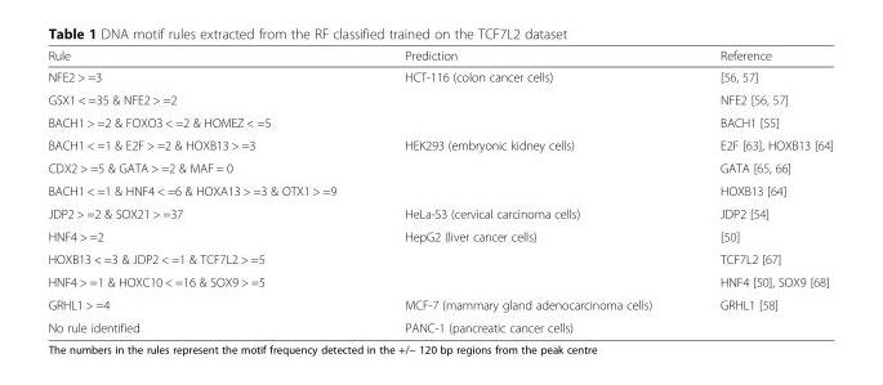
<table><thead><tr><td>Rule</td><td>Prediction</td><td>Reference</td></tr></thead><tbody><tr><td>NFE2 &gt; =3</td><td rowspan="3">HCT-116 (colon cancer cells)</td><td>[56, 57]</td></tr><tr><td>GSX1 &lt; =35 &amp; NFE2 &gt; =2</td><td>NFE2 [56, 57]</td></tr><tr><td>BACH1 &gt; =2 &amp; FOXO3 &lt; =2 &amp; HOMEZ &lt; =5</td><td>BACH1 [55]</td></tr><tr><td>BACH1 &lt; =1 &amp; E2F &gt; =2 &amp; HOXB13 &gt; =3</td><td rowspan="3">HEK293 (embryonic kidney cells)</td><td>E2F [63], HOXB13 [64]</td></tr><tr><td>CDX2 &gt; =5 &amp; GATA &gt; =2 &amp; MAF = 0</td><td>GATA [65, 66]</td></tr><tr><td>BACH1 &lt; =1 &amp; HNF4 &lt; =6 &amp; HOXA13 &gt; =3 &amp; OTX1 &gt; =9</td><td>HOXB13 [64]</td></tr><tr><td>JDP2 &gt; =2 &amp; SOX21 &gt; =37</td><td>HeLa-S3 (cervical carcinoma cells)</td><td>JDP2 [54]</td></tr><tr><td>HNF4 &gt; =2</td><td rowspan="3">HepG2 (liver cancer cells)</td><td>[50]</td></tr><tr><td>HOXB13 &lt; =3 &amp; JDP2 &lt; =1 &amp; TCF7L2 &gt; =5</td><td>TCF7L2 [67]</td></tr><tr><td>HNF4 &gt; =1 &amp; HOXC10 &lt; =16 &amp; SOX9 &gt; =5</td><td>HNF4 [50], SOX9 [68]</td></tr><tr><td>GRHL1 &gt; =4</td><td>MCF-7 (mammary gland adenocarcinoma cells)</td><td>GRHL1 [58]</td></tr><tr><td>No rule identified</td><td>PANC-1 (pancreatic cancer cells)</td><td></td></tr></tbody></table>